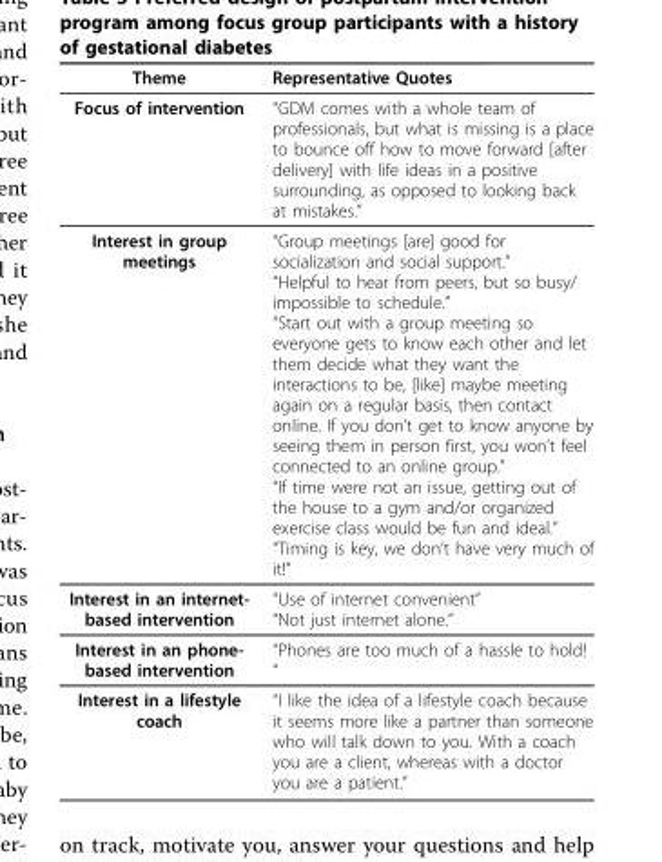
<table><thead><tr><td>Theme</td><td>Representative Quotes</td></tr></thead><tbody><tr><td>Focus of intervention</td><td>“GDM comes with a whole team of professionals, but what is missing is a place to bounce off how to move forward [after delivery] with life ideas in a positive surrounding, as opposed to looking back at mistakes.”</td></tr><tr><td>Interest in group meetings</td><td>“Group meetings [are] good for socialization and social support.” “Helpful to hear from peers, but so busy/ impossible to schedule.” “Start out with a group meeting so everyone gets to know each other and let them decide what they want the interactions to be, [like] maybe meeting again on a regular basis, then contact online. If you don’t get to know anyone by seeing them in person first, you won’t feel connected to an online group.” “If time were not an issue, getting out of the house to a gym and/or organized exercise class would be fun and ideal.” “Timing is key, we don’t have very much of it!”</td></tr><tr><td>Interest in an internet- based intervention</td><td>“Use of internet convenient” “Not just internet alone.”</td></tr><tr><td>Interest in an phone- based intervention</td><td>“Phones are too much of a hassle to hold! “</td></tr><tr><td>Interest in a lifestyle coach</td><td>“I like the idea of a lifestyle coach because it seems more like a partner than someone who will talk down to you. With a coach you are a client, whereas with a doctor you are a patient.”</td></tr></tbody></table>